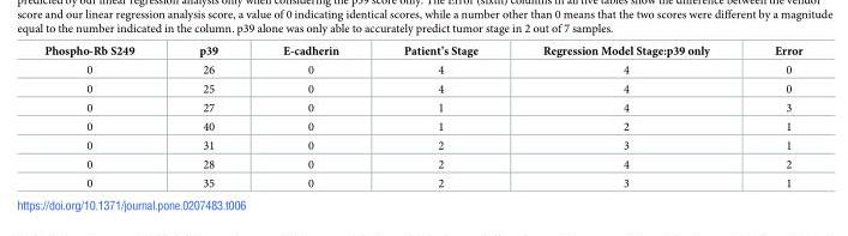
<table><thead><tr><td>Phospho-Rb S249</td><td>p39</td><td>E-cadherin</td><td>Patient’s Stage</td><td>Regression Model Stage:p39 only</td><td>Error</td></tr></thead><tbody><tr><td>0</td><td>26</td><td>0</td><td>4</td><td>4</td><td>0</td></tr><tr><td>0</td><td>25</td><td>0</td><td>4</td><td>4</td><td>0</td></tr><tr><td>0</td><td>27</td><td>0</td><td>1</td><td>4</td><td>3</td></tr><tr><td>0</td><td>40</td><td>0</td><td>1</td><td>2</td><td>1</td></tr><tr><td>0</td><td>31</td><td>0</td><td>2</td><td>3</td><td>1</td></tr><tr><td>0</td><td>28</td><td>0</td><td>2</td><td>4</td><td>2</td></tr><tr><td>0</td><td>35</td><td>0</td><td>2</td><td>3</td><td>1</td></tr></tbody></table>